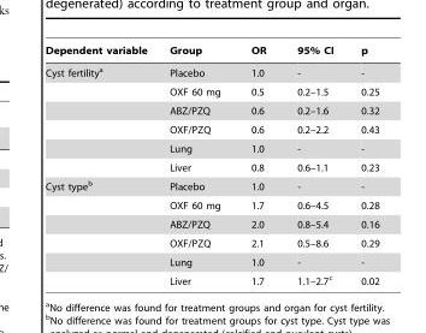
<table><thead><tr><td>Dependent variable</td><td>Group</td><td>OR</td><td>95% CI</td><td>p</td></tr></thead><tbody><tr><td rowspan="6">Cyst fertility<sup>a</sup></td><td>Placebo</td><td>1.0</td><td>-</td><td>-</td></tr><tr><td>OXF 60 mg</td><td>0.5</td><td>0.2–1.5</td><td>0.25</td></tr><tr><td>ABZ/PZQ</td><td>0.6</td><td>0.2–1.6</td><td>0.32</td></tr><tr><td>OXF/PZQ</td><td>0.6</td><td>0.2–2.2</td><td>0.43</td></tr><tr><td>Lung</td><td>1.0</td><td>-</td><td>-</td></tr><tr><td>Liver</td><td>0.8</td><td>0.6–1.1</td><td>0.23</td></tr><tr><td rowspan="6">Cyst type<sup>b</sup></td><td>Placebo</td><td>1.0</td><td>-</td><td>-</td></tr><tr><td>OXF 60 mg</td><td>1.7</td><td>0.6–4.5</td><td>0.28</td></tr><tr><td>ABZ/PZQ</td><td>2.0</td><td>0.8–5.4</td><td>0.16</td></tr><tr><td>OXF/PZQ</td><td>2.1</td><td>0.5–8.6</td><td>0.29</td></tr><tr><td>Lung</td><td>1.0</td><td>-</td><td>-</td></tr><tr><td>Liver</td><td>1.7</td><td>1.1–2.7<sup>c</sup></td><td>0.02</td></tr></tbody></table>